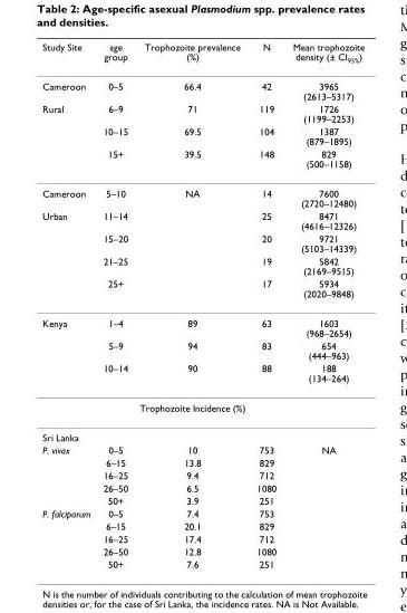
<table><thead><tr><td>Study Site</td><td>age group</td><td>Trophozoite prevalence (%)</td><td>N</td><td>Mean trophozoite density (± CI<sub>95%</sub>)</td></tr></thead><tbody><tr><td>Cameroon</td><td>0–5</td><td>66.4</td><td>42</td><td>3965 (2613–5317)</td></tr><tr><td rowspan="3">Rural</td><td>6–9</td><td>71</td><td>119</td><td>1726 (1199–2253)</td></tr><tr><td>10–15</td><td>69.5</td><td>104</td><td>1387 (879–1895)</td></tr><tr><td>15+</td><td>39.5</td><td>148</td><td>829 (500–1158)</td></tr><tr><td>Cameroon</td><td>5–10</td><td>NA</td><td>14</td><td>7600 (2720–12480)</td></tr><tr><td rowspan="4">Urban</td><td>11–14</td><td></td><td>25</td><td>8471 (4616–12326)</td></tr><tr><td>15–20</td><td></td><td>20</td><td>9721 (5103–14339)</td></tr><tr><td>21–25</td><td></td><td>19</td><td>5842 (2169–9515)</td></tr><tr><td>25+</td><td></td><td>17</td><td>5934 (2020–9848)</td></tr><tr><td rowspan="4">Kenya</td><td>1–4</td><td>89</td><td>63</td><td>1603 (968–2654)</td></tr><tr><td>5–9</td><td>94</td><td>83</td><td>654 (444–963)</td></tr><tr><td>10–14</td><td>90</td><td>88</td><td>188 (134–264)</td></tr><tr><td></td><td>Trophozoite Incidence (%)</td><td></td><td></td></tr><tr><td colspan="5">Sri Lanka</td></tr><tr><td rowspan="5">P. vivax</td><td>0–5</td><td>10</td><td>753</td><td>NA</td></tr><tr><td>6–15</td><td>13.8</td><td>829</td><td></td></tr><tr><td>16–25</td><td>9.4</td><td>712</td><td></td></tr><tr><td>26–50</td><td>6.5</td><td>1080</td><td></td></tr><tr><td>50+</td><td>3.9</td><td>251</td><td></td></tr><tr><td rowspan="5">P. falciparum</td><td>0–5</td><td>7.4</td><td>753</td><td></td></tr><tr><td>6–15</td><td>20.1</td><td>829</td><td></td></tr><tr><td>16–25</td><td>17.4</td><td>712</td><td></td></tr><tr><td>26–50</td><td>12.8</td><td>1080</td><td></td></tr><tr><td>50+</td><td>7.6</td><td>251</td><td></td></tr></tbody></table>